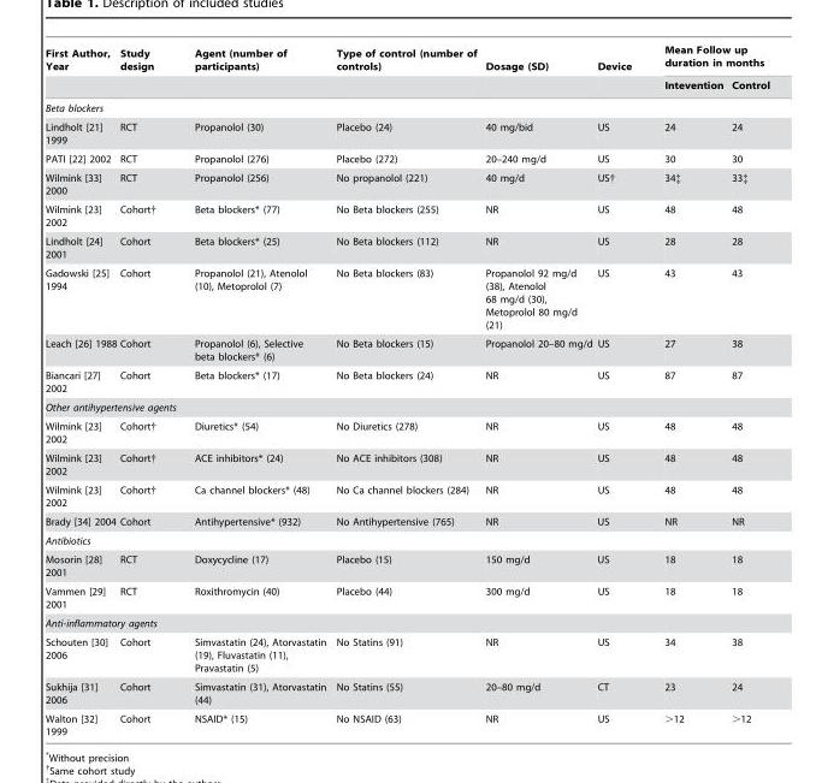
<table><thead><tr><td rowspan="2">First Author, Year</td><td rowspan="2">Study design</td><td rowspan="2">Agent (number of participants)</td><td rowspan="2">Type of control (number of controls)</td><td rowspan="2">Dosage (SD)</td><td rowspan="2">Device</td><td colspan="2">Mean Follow up duration in months</td></tr><tr><td>Intevention</td><td>Control</td></tr></thead><tbody><tr><td colspan="8">Beta blockers</td></tr><tr><td>Lindholt [21] 1999</td><td>RCT</td><td>Propanolol (30)</td><td>Placebo (24)</td><td>40 mg/bid</td><td>US</td><td>24</td><td>24</td></tr><tr><td>PATI [22] 2002</td><td>RCT</td><td>Propanolol (276)</td><td>Placebo (272)</td><td>20–240 mg/d</td><td>US</td><td>30</td><td>30</td></tr><tr><td>Wilmink [33] 2000</td><td>RCT</td><td>Propanolol (256)</td><td>No propanolol (221)</td><td>40 mg/d</td><td>US†</td><td>34‡</td><td>33‡</td></tr><tr><td>Wilmink [23] 2002</td><td>Cohort†</td><td>Beta blockers* (77)</td><td>No Beta blockers (255)</td><td>NR</td><td>US</td><td>48</td><td>48</td></tr><tr><td>Lindholt [24] 2001</td><td>Cohort</td><td>Beta blockers* (25)</td><td>No Beta blockers (112)</td><td>NR</td><td>US</td><td>28</td><td>28</td></tr><tr><td>Gadowski [25] 1994</td><td>Cohort</td><td>Propanolol (21), Atenolol (10), Metoprolol (7)</td><td>No Beta blockers (83)</td><td>Propanolol 92 mg/d (38), Atenolol 68 mg/d (30), Metoprolol 80 mg/d (21)</td><td>US</td><td>43</td><td>43</td></tr><tr><td>Leach [26] 1988</td><td>Cohort</td><td>Propanolol (6), Selective beta blockers* (6)</td><td>No Beta blockers (15)</td><td>Propanolol 20–80 mg/d</td><td>US</td><td>27</td><td>38</td></tr><tr><td>Biancari [27] 2002</td><td>Cohort</td><td>Beta blockers* (17)</td><td>No Beta blockers (24)</td><td>NR</td><td>US</td><td>87</td><td>87</td></tr><tr><td colspan="8">Other antihypertensive agents</td></tr><tr><td>Wilmink [23] 2002</td><td>Cohort†</td><td>Diuretics* (54)</td><td>No Diuretics (278)</td><td>NR</td><td>US</td><td>48</td><td>48</td></tr><tr><td>Wilmink [23] 2002</td><td>Cohort†</td><td>ACE inhibitors* (24)</td><td>No ACE inhibitors (308)</td><td>NR</td><td>US</td><td>48</td><td>48</td></tr><tr><td>Wilmink [23] 2002</td><td>Cohort†</td><td>Ca channel blockers* (48)</td><td>No Ca channel blockers (284)</td><td>NR</td><td>US</td><td>48</td><td>48</td></tr><tr><td>Brady [34] 2004</td><td>Cohort</td><td>Antihypertensive* (932)</td><td>No Antihypertensive (765)</td><td>NR</td><td>US</td><td>NR</td><td>NR</td></tr><tr><td colspan="8">Antibiotics</td></tr><tr><td>Mosorin [28] 2001</td><td>RCT</td><td>Doxycycline (17)</td><td>Placebo (15)</td><td>150 mg/d</td><td>US</td><td>18</td><td>18</td></tr><tr><td>Vammen [29] 2001</td><td>RCT</td><td>Roxithromycin (40)</td><td>Placebo (44)</td><td>300 mg/d</td><td>US</td><td>18</td><td>18</td></tr><tr><td colspan="8">Anti-inflammatory agents</td></tr><tr><td>Schouten [30] 2006</td><td>Cohort</td><td>Simvastatin (24), Atorvastatin (19), Fluvastatin (11), Pravastatin (5)</td><td>No Statins (91)</td><td>NR</td><td>US</td><td>34</td><td>38</td></tr><tr><td>Sukhija [31] 2006</td><td>Cohort</td><td>Simvastatin (31), Atorvastatin (44)</td><td>No Statins (55)</td><td>20–80 mg/d</td><td>CT</td><td>23</td><td>24</td></tr><tr><td>Walton [32] 1999</td><td>Cohort</td><td>NSAID* (15)</td><td>No NSAID (63)</td><td>NR</td><td>US</td><td>&gt;12</td><td>&gt;12</td></tr></tbody></table>